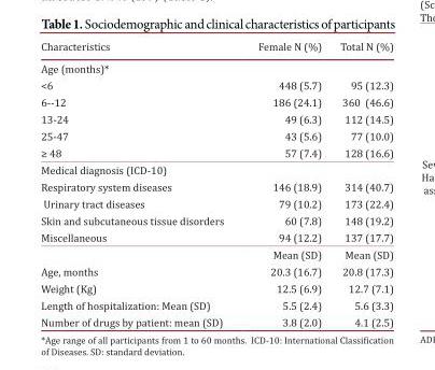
<table><thead><tr><td>Characteristics</td><td>Female N (%)</td><td>Total N (%)</td></tr></thead><tbody><tr><td colspan="3">Age (months)*</td></tr><tr><td>&lt;6</td><td>448 (5.7)</td><td>95 (12.3)</td></tr><tr><td>6--12</td><td>186 (24.1)</td><td>360 (46.6)</td></tr><tr><td>13-24</td><td>49 (6.3)</td><td>112 (14.5)</td></tr><tr><td>25-47</td><td>43 (5.6)</td><td>77 (10.0)</td></tr><tr><td>≥ 48</td><td>57 (7.4)</td><td>128 (16.6)</td></tr><tr><td colspan="3">Medical diagnosis (ICD-10)</td></tr><tr><td>Respiratory system diseases</td><td>146 (18.9)</td><td>314 (40.7)</td></tr><tr><td>Urinary tract diseases</td><td>79 (10.2)</td><td>173 (22.4)</td></tr><tr><td>Skin and subcutaneous tissue disorders</td><td>60 (7.8)</td><td>148 (19.2)</td></tr><tr><td rowspan="2">Miscellaneous</td><td>94 (12.2)</td><td>137 (17.7)</td></tr><tr><td>Mean (SD)</td><td>Mean (SD)</td></tr><tr><td>Age, months</td><td>20.3 (16.7)</td><td>20.8 (17.3)</td></tr><tr><td>Weight (Kg)</td><td>12.5 (6.9)</td><td>12.7 (7.1)</td></tr><tr><td>Length of hospitalization: Mean (SD)</td><td>5.5 (2.4)</td><td>5.6 (3.3)</td></tr><tr><td>Number of drugs by patient: mean (SD)</td><td>3.8 (2.0)</td><td>4.1 (2.5)</td></tr></tbody></table>